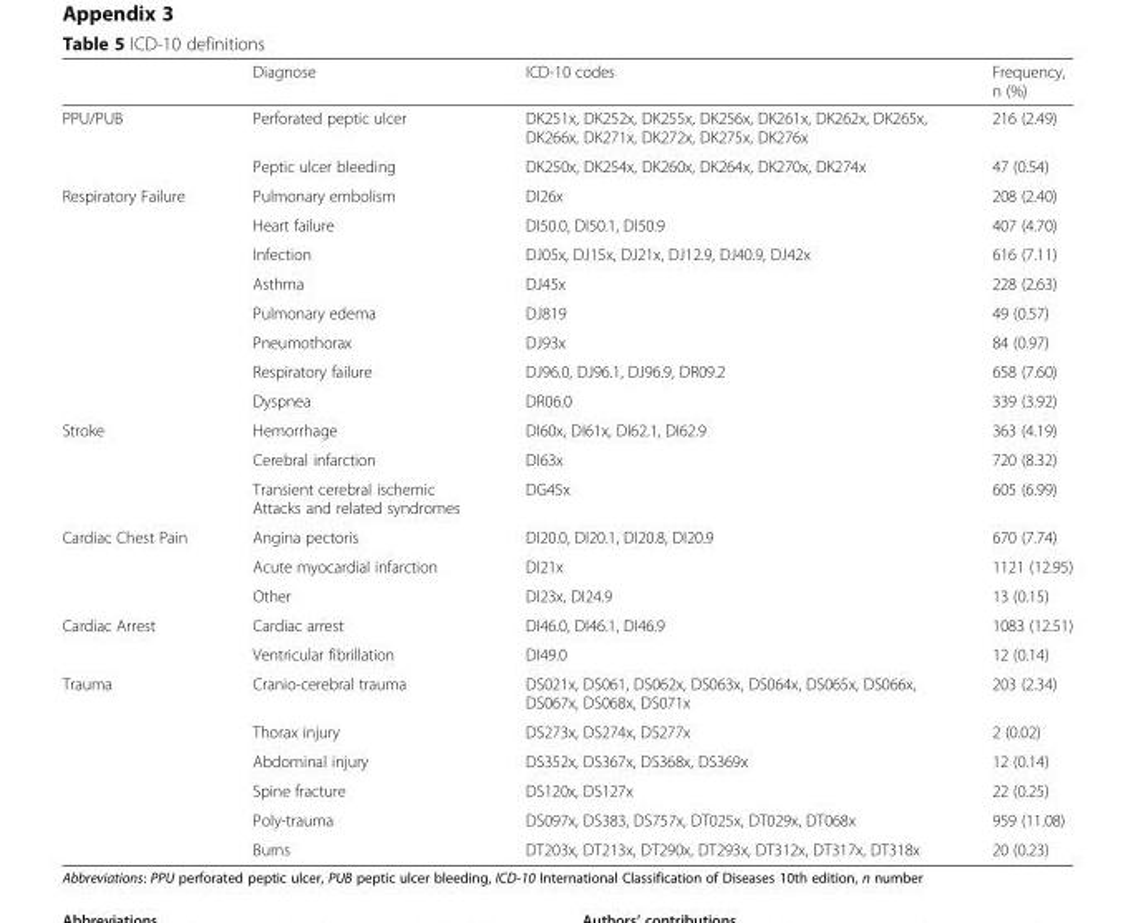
<table><thead><tr><td></td><td>Diagnose</td><td>ICD-10 codes</td><td>Frequency, n (%)</td></tr></thead><tbody><tr><td rowspan="2">PPU/PUB</td><td>Perforated peptic ulcer</td><td>DK251x, DK252x, DK255x, DK256x, DK261x, DK262x, DK265x, DK266x, DK271x, DK272x, DK275x, DK276x</td><td>216 (2.49)</td></tr><tr><td>Peptic ulcer bleeding</td><td>DK250x, DK254x, DK260x, DK264x, DK270x, DK274x</td><td>47 (0.54)</td></tr><tr><td rowspan="8">Respiratory Failure</td><td>Pulmonary embolism</td><td>DI26x</td><td>208 (2.40)</td></tr><tr><td>Heart failure</td><td>DI50.0, DI50.1, DI50.9</td><td>407 (4.70)</td></tr><tr><td>Infection</td><td>DJ05x, DJ15x, DJ21x, DJ12.9, DJ40.9, DJ42x</td><td>616 (7.11)</td></tr><tr><td>Asthma</td><td>DJ45x</td><td>228 (2.63)</td></tr><tr><td>Pulmonary edema</td><td>DJ819</td><td>49 (0.57)</td></tr><tr><td>Pneumothorax</td><td>DJ93x</td><td>84 (0.97)</td></tr><tr><td>Respiratory failure</td><td>DJ96.0, DJ96.1, DJ96.9, DR09.2</td><td>658 (7.60)</td></tr><tr><td>Dyspnea</td><td>DR06.0</td><td>339 (3.92)</td></tr><tr><td rowspan="3">Stroke</td><td>Hemorrhage</td><td>DI60x, DI61x, DI62.1, DI62.9</td><td>363 (4.19)</td></tr><tr><td>Cerebral infarction</td><td>DI63x</td><td>720 (8.32)</td></tr><tr><td>Transient cerebral ischemic Attacks and related syndromes</td><td>DG45x</td><td>605 (6.99)</td></tr><tr><td rowspan="3">Cardiac Chest Pain</td><td>Angina pectoris</td><td>DI20.0, DI20.1, DI20.8, DI20.9</td><td>670 (7.74)</td></tr><tr><td>Acute myocardial infarction</td><td>DI21x</td><td>1121 (12.95)</td></tr><tr><td>Other</td><td>DI23x, DI24.9</td><td>13 (0.15)</td></tr><tr><td rowspan="2">Cardiac Arrest</td><td>Cardiac arrest</td><td>DI46.0, DI46.1, DI46.9</td><td>1083 (12.51)</td></tr><tr><td>Ventricular fibrillation</td><td>DI49.0</td><td>12 (0.14)</td></tr><tr><td rowspan="6">Trauma</td><td>Cranio-cerebral trauma</td><td>DS021x, DS061, DS062x, DS063x, DS064x, DS065x, DS066x, DS067x, DS068x, DS071x</td><td>203 (2.34)</td></tr><tr><td>Thorax injury</td><td>DS273x, DS274x, DS277x</td><td>2 (0.02)</td></tr><tr><td>Abdominal injury</td><td>DS352x, DS367x, DS368x, DS369x</td><td>12 (0.14)</td></tr><tr><td>Spine fracture</td><td>DS120x, DS127x</td><td>22 (0.25)</td></tr><tr><td>Poly-trauma</td><td>DS097x, DS383, DS757x, DT025x, DT029x, DT068x</td><td>959 (11.08)</td></tr><tr><td>Burns</td><td>DT203x, DT213x, DT290x, DT293x, DT312x, DT317x, DT318x</td><td>20 (0.23)</td></tr></tbody></table>